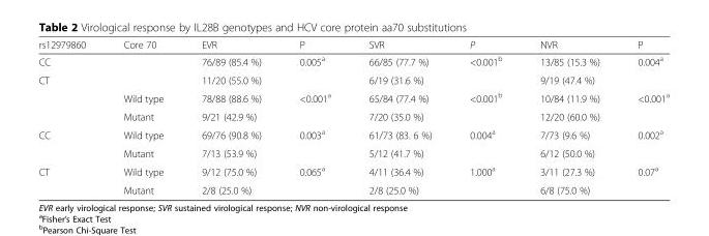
<table><thead><tr><td>rs12979860</td><td>Core 70</td><td>EVR</td><td>P</td><td>SVR</td><td>P</td><td>NVR</td><td>P</td></tr></thead><tbody><tr><td>CC</td><td rowspan="2"></td><td>76/89 (85.4 %)</td><td rowspan="2">0.005<sup>a</sup></td><td>66/85 (77.7 %)</td><td rowspan="2">&lt;0.001<sup>b</sup></td><td>13/85 (15.3 %)</td><td rowspan="2">0.004<sup>a</sup></td></tr><tr><td rowspan="3">CT</td><td>11/20 (55.0 %)</td><td>6/19 (31.6 %)</td><td>9/19 (47.4 %)</td></tr><tr><td>Wild type</td><td>78/88 (88.6 %)</td><td rowspan="2">&lt;0.001<sup>a</sup></td><td>65/84 (77.4 %)</td><td rowspan="2">&lt;0.001<sup>b</sup></td><td>10/84 (11.9 %)</td><td rowspan="2">&lt;0.001<sup>a</sup></td></tr><tr><td>Mutant</td><td>9/21 (42.9 %)</td><td>7/20 (35.0 %)</td><td>12/20 (60.0 %)</td></tr><tr><td rowspan="2">CC</td><td>Wild type</td><td>69/76 (90.8 %)</td><td rowspan="2">0.003<sup>a</sup></td><td>61/73 (83. 6 %)</td><td rowspan="2">0.004<sup>a</sup></td><td>7/73 (9.6 %)</td><td rowspan="2">0.002<sup>a</sup></td></tr><tr><td>Mutant</td><td>7/13 (53.9 %)</td><td>5/12 (41.7 %)</td><td>6/12 (50.0 %)</td></tr><tr><td rowspan="2">CT</td><td>Wild type</td><td>9/12 (75.0 %)</td><td rowspan="2">0.065<sup>a</sup></td><td>4/11 (36.4 %)</td><td rowspan="2">1.000<sup>a</sup></td><td>3/11 (27.3 %)</td><td rowspan="2">0.07<sup>a</sup></td></tr><tr><td>Mutant</td><td>2/8 (25.0 %)</td><td>2/8 (25.0 %)</td><td>6/8 (75.0 %)</td></tr></tbody></table>